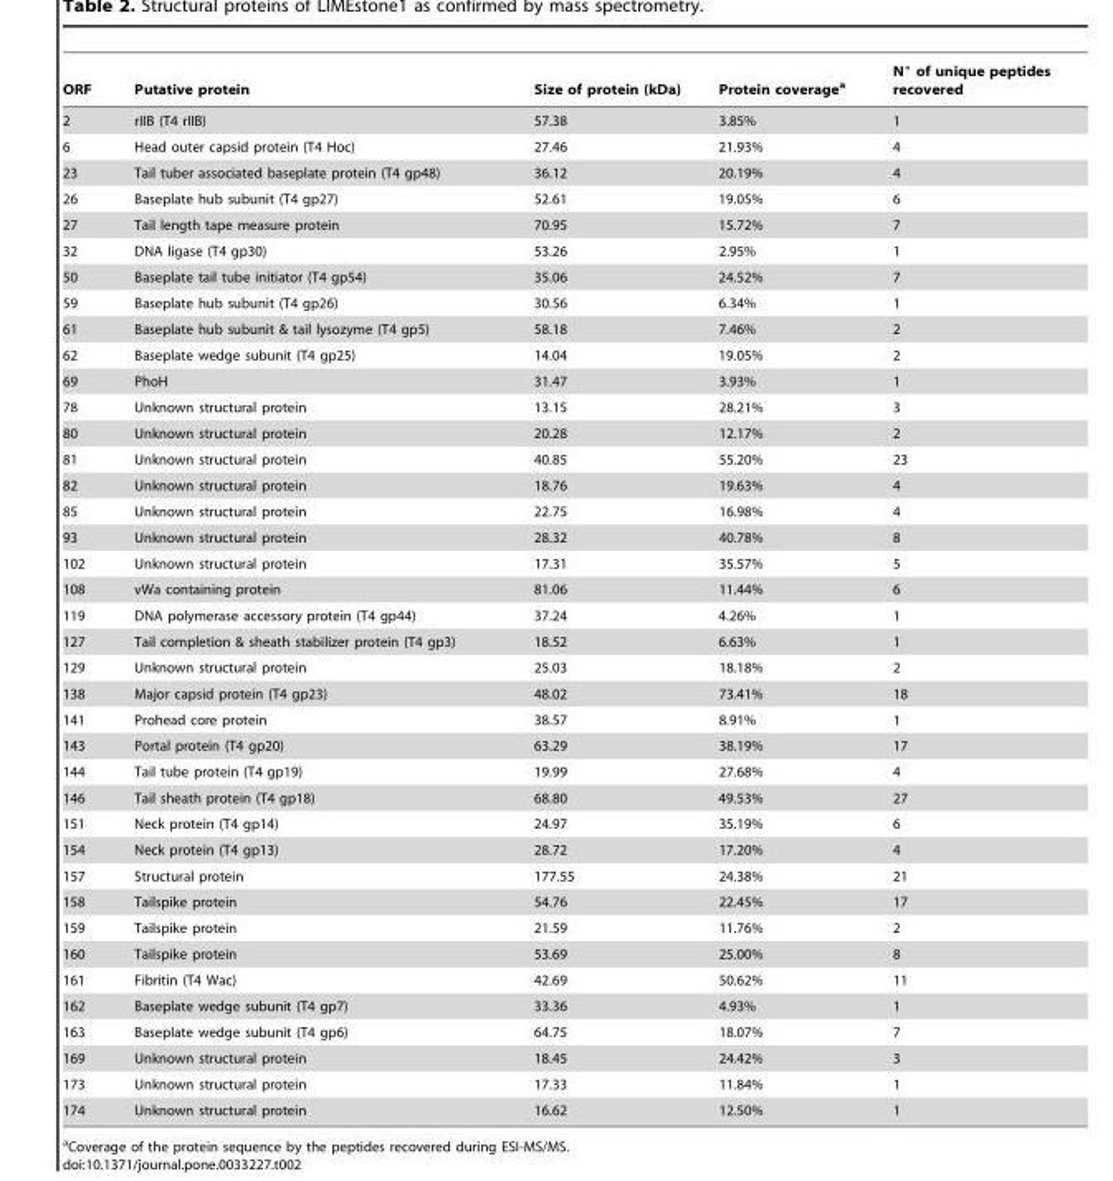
<table><thead><tr><td>ORF</td><td>Putative protein</td><td>Size of protein (kDa)</td><td>Protein coverage<sup>a</sup></td><td>N° of unique peptides recovered</td></tr></thead><tbody><tr><td>2</td><td>rIIB (T4 rIIB)</td><td>57.38</td><td>3.85%</td><td>1</td></tr><tr><td>6</td><td>Head outer capsid protein (T4 Hoc)</td><td>27.46</td><td>21.93%</td><td>4</td></tr><tr><td>23</td><td>Tail tuber associated baseplate protein (T4 gp48)</td><td>36.12</td><td>20.19%</td><td>4</td></tr><tr><td>26</td><td>Baseplate hub subunit (T4 gp27)</td><td>52.61</td><td>19.05%</td><td>6</td></tr><tr><td>27</td><td>Tail length tape measure protein</td><td>70.95</td><td>15.72%</td><td>7</td></tr><tr><td>32</td><td>DNA ligase (T4 gp30)</td><td>53.26</td><td>2.95%</td><td>1</td></tr><tr><td>50</td><td>Baseplate tail tube initiator (T4 gp54)</td><td>35.06</td><td>24.52%</td><td>7</td></tr><tr><td>59</td><td>Baseplate hub subunit (T4 gp26)</td><td>30.56</td><td>6.34%</td><td>1</td></tr><tr><td>61</td><td>Baseplate hub subunit &amp; tail lysozyme (T4 gp5)</td><td>58.18</td><td>7.46%</td><td>2</td></tr><tr><td>62</td><td>Baseplate wedge subunit (T4 gp25)</td><td>14.04</td><td>19.05%</td><td>2</td></tr><tr><td>69</td><td>PhoH</td><td>31.47</td><td>3.93%</td><td>1</td></tr><tr><td>78</td><td>Unknown structural protein</td><td>13.15</td><td>28.21%</td><td>3</td></tr><tr><td>80</td><td>Unknown structural protein</td><td>20.28</td><td>12.17%</td><td>2</td></tr><tr><td>81</td><td>Unknown structural protein</td><td>40.85</td><td>55.20%</td><td>23</td></tr><tr><td>82</td><td>Unknown structural protein</td><td>18.76</td><td>19.63%</td><td>4</td></tr><tr><td>85</td><td>Unknown structural protein</td><td>22.75</td><td>16.98%</td><td>4</td></tr><tr><td>93</td><td>Unknown structural protein</td><td>28.32</td><td>40.78%</td><td>8</td></tr><tr><td>102</td><td>Unknown structural protein</td><td>17.31</td><td>35.57%</td><td>5</td></tr><tr><td>108</td><td>vWa containing protein</td><td>81.06</td><td>11.44%</td><td>6</td></tr><tr><td>119</td><td>DNA polymerase accessory protein (T4 gp44)</td><td>37.24</td><td>4.26%</td><td>1</td></tr><tr><td>127</td><td>Tail completion &amp; sheath stabilizer protein (T4 gp3)</td><td>18.52</td><td>6.63%</td><td>1</td></tr><tr><td>129</td><td>Unknown structural protein</td><td>25.03</td><td>18.18%</td><td>2</td></tr><tr><td>138</td><td>Major capsid protein (T4 gp23)</td><td>48.02</td><td>73.41%</td><td>18</td></tr><tr><td>141</td><td>Prohead core protein</td><td>38.57</td><td>8.91%</td><td>1</td></tr><tr><td>143</td><td>Portal protein (T4 gp20)</td><td>63.29</td><td>38.19%</td><td>17</td></tr><tr><td>144</td><td>Tail tube protein (T4 gp19)</td><td>19.99</td><td>27.68%</td><td>4</td></tr><tr><td>146</td><td>Tail sheath protein (T4 gp18)</td><td>68.80</td><td>49.53%</td><td>27</td></tr><tr><td>151</td><td>Neck protein (T4 gp14)</td><td>24.97</td><td>35.19%</td><td>6</td></tr><tr><td>154</td><td>Neck protein (T4 gp13)</td><td>28.72</td><td>17.20%</td><td>4</td></tr><tr><td>157</td><td>Structural protein</td><td>177.55</td><td>24.38%</td><td>21</td></tr><tr><td>158</td><td>Tailspike protein</td><td>54.76</td><td>22.45%</td><td>17</td></tr><tr><td>159</td><td>Tailspike protein</td><td>21.59</td><td>11.76%</td><td>2</td></tr><tr><td>160</td><td>Tailspike protein</td><td>53.69</td><td>25.00%</td><td>8</td></tr><tr><td>161</td><td>Fibritin (T4 Wac)</td><td>42.69</td><td>50.62%</td><td>11</td></tr><tr><td>162</td><td>Baseplate wedge subunit (T4 gp7)</td><td>33.36</td><td>4.93%</td><td>1</td></tr><tr><td>163</td><td>Baseplate wedge subunit (T4 gp6)</td><td>64.75</td><td>18.07%</td><td>7</td></tr><tr><td>169</td><td>Unknown structural protein</td><td>18.45</td><td>24.42%</td><td>3</td></tr><tr><td>173</td><td>Unknown structural protein</td><td>17.33</td><td>11.84%</td><td>1</td></tr><tr><td>174</td><td>Unknown structural protein</td><td>16.62</td><td>12.50%</td><td>1</td></tr></tbody></table>